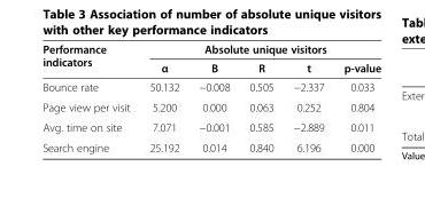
<table><thead><tr><td rowspan="2">Performance indicators</td><td colspan="5">Absolute unique visitors</td></tr><tr><td>α</td><td>B</td><td>R</td><td>t</td><td>p-value</td></tr></thead><tbody><tr><td>Bounce rate</td><td>50.132</td><td>−0.008</td><td>0.505</td><td>−2.337</td><td>0.033</td></tr><tr><td>Page view per visit</td><td>5.200</td><td>0.000</td><td>0.063</td><td>0.252</td><td>0.804</td></tr><tr><td>Avg. time on site</td><td>7.071</td><td>−0.001</td><td>0.585</td><td>−2.889</td><td>0.011</td></tr><tr><td>Search engine</td><td>25.192</td><td>0.014</td><td>0.840</td><td>6.196</td><td>0.000</td></tr></tbody></table>